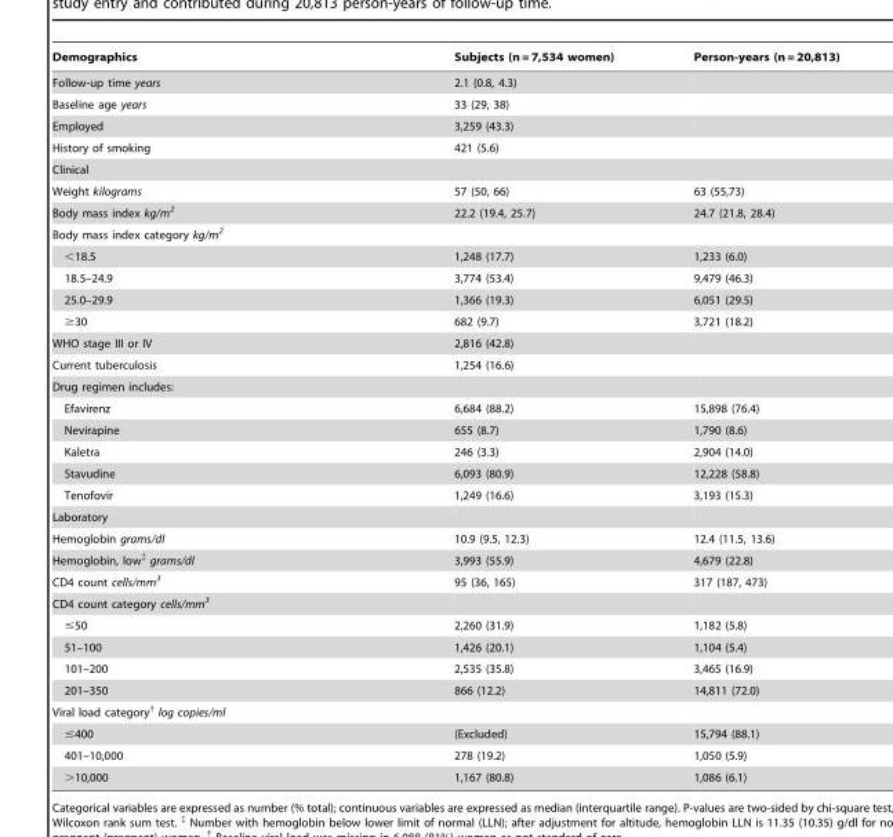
<table><thead><tr><td>Demographics</td><td>Subjects (n = 7,534 women)</td><td>Person-years (n = 20,813)</td></tr></thead><tbody><tr><td>Follow-up time years</td><td>2.1 (0.8, 4.3)</td><td></td></tr><tr><td>Baseline age years</td><td>33 (29, 38)</td><td></td></tr><tr><td>Employed</td><td>3,259 (43.3)</td><td></td></tr><tr><td>History of smoking</td><td>421 (5.6)</td><td></td></tr><tr><td colspan="3">Clinical</td></tr><tr><td>Weight kilograms</td><td>57 (50, 66)</td><td>63 (55,73)</td></tr><tr><td>Body mass index kg/m<sup>2</sup></td><td>22.2 (19.4, 25.7)</td><td>24.7 (21.8, 28.4)</td></tr><tr><td colspan="3">Body mass index category kg/m<sup>2</sup></td></tr><tr><td>&lt;18.5</td><td>1,248 (17.7)</td><td>1,233 (6.0)</td></tr><tr><td>18.5–24.9</td><td>3,774 (53.4)</td><td>9,479 (46.3)</td></tr><tr><td>25.0–29.9</td><td>1,366 (19.3)</td><td>6,051 (29.5)</td></tr><tr><td>≥30</td><td>682 (9.7)</td><td>3,721 (18.2)</td></tr><tr><td>WHO stage III or IV</td><td>2,816 (42.8)</td><td></td></tr><tr><td>Current tuberculosis</td><td>1,254 (16.6)</td><td></td></tr><tr><td colspan="3">Drug regimen includes:</td></tr><tr><td>Efavirenz</td><td>6,684 (88.2)</td><td>15,898 (76.4)</td></tr><tr><td>Nevirapine</td><td>655 (8.7)</td><td>1,790 (8.6)</td></tr><tr><td>Kaletra</td><td>246 (3.3)</td><td>2,904 (14.0)</td></tr><tr><td>Stavudine</td><td>6,093 (80.9)</td><td>12,228 (58.8)</td></tr><tr><td>Tenofovir</td><td>1,249 (16.6)</td><td>3,193 (15.3)</td></tr><tr><td colspan="3">Laboratory</td></tr><tr><td>Hemoglobin grams/dl</td><td>10.9 (9.5, 12.3)</td><td>12.4 (11.5, 13.6)</td></tr><tr><td>Hemoglobin, low<sup>‡</sup> grams/dl</td><td>3,993 (55.9)</td><td>4,679 (22.8)</td></tr><tr><td>CD4 count cells/mm<sup>3</sup></td><td>95 (36, 165)</td><td>317 (187, 473)</td></tr><tr><td colspan="3">CD4 count category cells/mm<sup>3</sup></td></tr><tr><td>≤50</td><td>2,260 (31.9)</td><td>1,182 (5.8)</td></tr><tr><td>51–100</td><td>1,426 (20.1)</td><td>1,104 (5.4)</td></tr><tr><td>101–200</td><td>2,535 (35.8)</td><td>3,465 (16.9)</td></tr><tr><td>201–350</td><td>866 (12.2)</td><td>14,811 (72.0)</td></tr><tr><td colspan="3">Viral load category<sup>†</sup> log copies/ml</td></tr><tr><td>≤400</td><td>(Excluded)</td><td>15,794 (88.1)</td></tr><tr><td>401–10,000</td><td>278 (19.2)</td><td>1,050 (5.9)</td></tr><tr><td>&gt;10,000</td><td>1,167 (80.8)</td><td>1,086 (6.1)</td></tr></tbody></table>